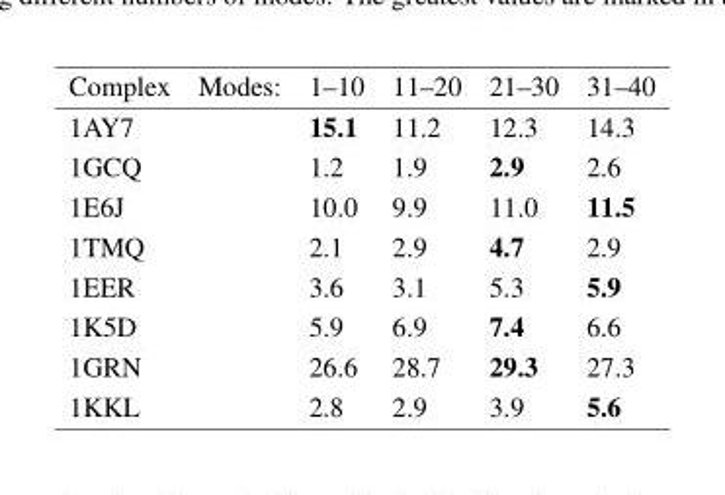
<table><thead><tr><td>Complex</td><td>Modes: 1–10</td><td>11–20</td><td>21–30</td><td>31–40</td></tr></thead><tbody><tr><td>1AY7</td><td>15.1</td><td>11.2</td><td>12.3</td><td>14.3</td></tr><tr><td>1GCQ</td><td>1.2</td><td>1.9</td><td>2.9</td><td>2.6</td></tr><tr><td>1E6J</td><td>10.0</td><td>9.9</td><td>11.0</td><td>11.5</td></tr><tr><td>1TMQ</td><td>2.1</td><td>2.9</td><td>4.7</td><td>2.9</td></tr><tr><td>1EER</td><td>3.6</td><td>3.1</td><td>5.3</td><td>5.9</td></tr><tr><td>1K5D</td><td>5.9</td><td>6.9</td><td>7.4</td><td>6.6</td></tr><tr><td>1GRN</td><td>26.6</td><td>28.7</td><td>29.3</td><td>27.3</td></tr><tr><td>1KKL</td><td>2.8</td><td>2.9</td><td>3.9</td><td>5.6</td></tr></tbody></table>